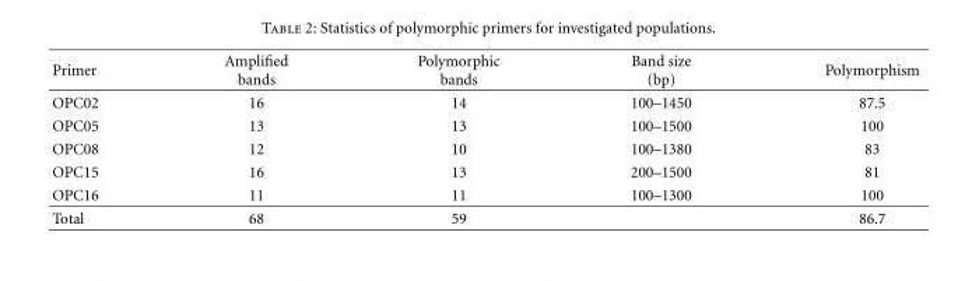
<table><thead><tr><td>Primer</td><td>Amplified bands</td><td>Polymorphic bands</td><td>Band size (bp)</td><td>Polymorphism</td></tr></thead><tbody><tr><td>OPC02</td><td>16</td><td>14</td><td>100–1450</td><td>87.5</td></tr><tr><td>OPC05</td><td>13</td><td>13</td><td>100–1500</td><td>100</td></tr><tr><td>OPC08</td><td>12</td><td>10</td><td>100–1380</td><td>83</td></tr><tr><td>OPC15</td><td>16</td><td>13</td><td>200–1500</td><td>81</td></tr><tr><td>OPC16</td><td>11</td><td>11</td><td>100–1300</td><td>100</td></tr><tr><td>Total</td><td>68</td><td>59</td><td></td><td>86.7</td></tr></tbody></table>